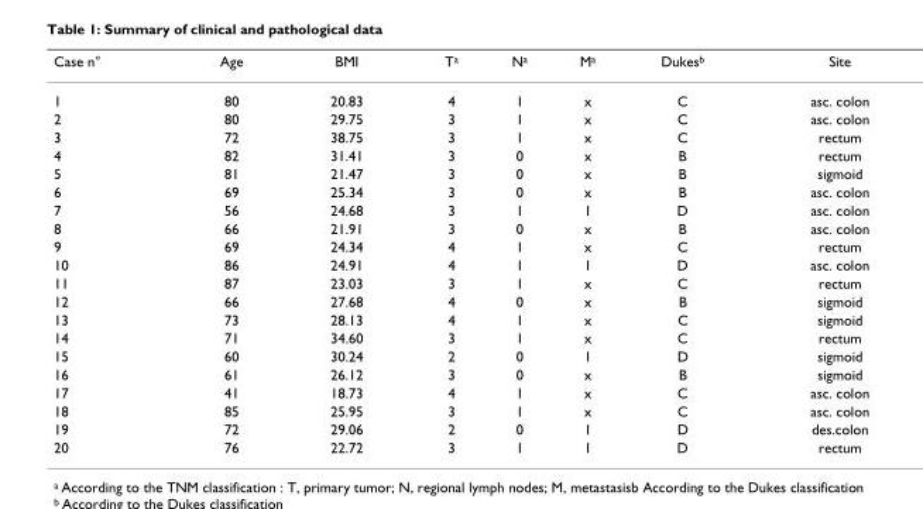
<table><thead><tr><td>Case n°</td><td>Age</td><td>BMI</td><td>T<sup>a</sup></td><td>N<sup>a</sup></td><td>M<sup>a</sup></td><td>Dukes<sup>b</sup></td><td>Site</td></tr></thead><tbody><tr><td>1</td><td>80</td><td>20.83</td><td>4</td><td>1</td><td>x</td><td>C</td><td>asc. colon</td></tr><tr><td>2</td><td>80</td><td>29.75</td><td>3</td><td>1</td><td>x</td><td>C</td><td>asc. colon</td></tr><tr><td>3</td><td>72</td><td>38.75</td><td>3</td><td>1</td><td>x</td><td>C</td><td>rectum</td></tr><tr><td>4</td><td>82</td><td>31.41</td><td>3</td><td>0</td><td>x</td><td>B</td><td>rectum</td></tr><tr><td>5</td><td>81</td><td>21.47</td><td>3</td><td>0</td><td>x</td><td>B</td><td>sigmoid</td></tr><tr><td>6</td><td>69</td><td>25.34</td><td>3</td><td>0</td><td>x</td><td>B</td><td>asc. colon</td></tr><tr><td>7</td><td>56</td><td>24.68</td><td>3</td><td>1</td><td>1</td><td>D</td><td>asc. colon</td></tr><tr><td>8</td><td>66</td><td>21.91</td><td>3</td><td>0</td><td>x</td><td>B</td><td>asc. colon</td></tr><tr><td>9</td><td>69</td><td>24.34</td><td>4</td><td>1</td><td>x</td><td>C</td><td>rectum</td></tr><tr><td>10</td><td>86</td><td>24.91</td><td>4</td><td>1</td><td>1</td><td>D</td><td>asc. colon</td></tr><tr><td>11</td><td>87</td><td>23.03</td><td>3</td><td>1</td><td>x</td><td>C</td><td>rectum</td></tr><tr><td>12</td><td>66</td><td>27.68</td><td>4</td><td>0</td><td>x</td><td>B</td><td>sigmoid</td></tr><tr><td>13</td><td>73</td><td>28.13</td><td>4</td><td>1</td><td>x</td><td>C</td><td>sigmoid</td></tr><tr><td>14</td><td>71</td><td>34.60</td><td>3</td><td>1</td><td>x</td><td>C</td><td>rectum</td></tr><tr><td>15</td><td>60</td><td>30.24</td><td>2</td><td>0</td><td>1</td><td>D</td><td>sigmoid</td></tr><tr><td>16</td><td>61</td><td>26.12</td><td>3</td><td>0</td><td>x</td><td>B</td><td>sigmoid</td></tr><tr><td>17</td><td>41</td><td>18.73</td><td>4</td><td>1</td><td>x</td><td>C</td><td>asc. colon</td></tr><tr><td>18</td><td>85</td><td>25.95</td><td>3</td><td>1</td><td>x</td><td>C</td><td>asc. colon</td></tr><tr><td>19</td><td>72</td><td>29.06</td><td>2</td><td>0</td><td>1</td><td>D</td><td>des.colon</td></tr><tr><td>20</td><td>76</td><td>22.72</td><td>3</td><td>1</td><td>1</td><td>D</td><td>rectum</td></tr></tbody></table>